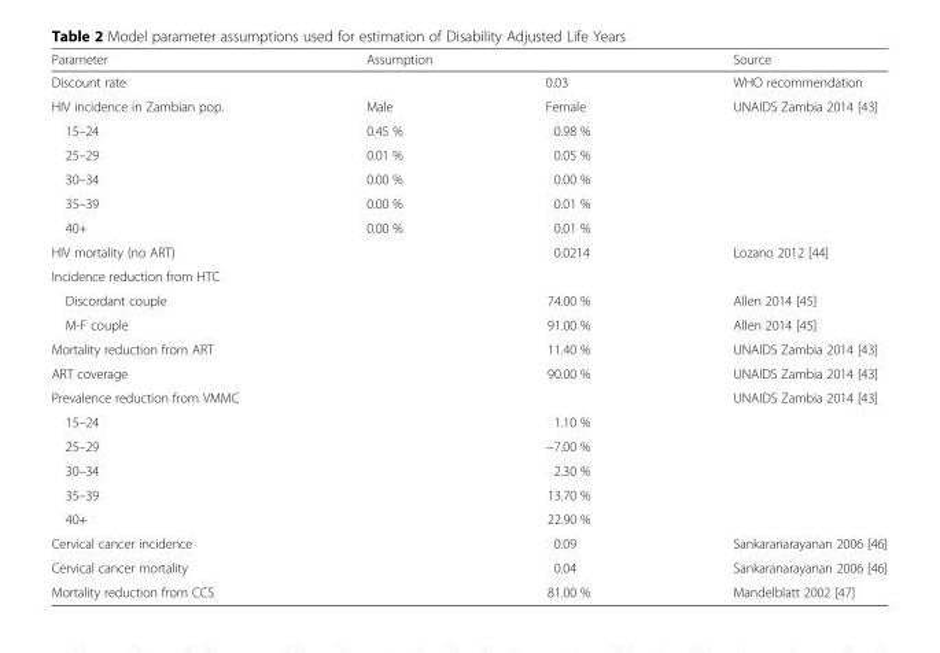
<table><thead><tr><td rowspan="2">Parameter Discount rate</td><td colspan="2">Assumption</td><td rowspan="2">Source WHO recommendation</td></tr><tr><td></td><td>0.03</td></tr></thead><tbody><tr><td>HIV incidence in Zambian pop.</td><td>Male</td><td>Female</td><td rowspan="6">UNAIDS Zambia 2014 [43]</td></tr><tr><td>15–24</td><td>0.45 %</td><td>0.98 %</td></tr><tr><td>25–29</td><td>0.01 %</td><td>0.05 %</td></tr><tr><td>30–34</td><td>0.00 %</td><td>0.00 %</td></tr><tr><td>35–39</td><td>0.00 %</td><td>0.01 %</td></tr><tr><td>40+</td><td>0.00 %</td><td>0.01 %</td></tr><tr><td>HIV mortality (no ART)</td><td></td><td>0.0214</td><td>Lozano 2012 [44]</td></tr><tr><td colspan="4">Incidence reduction from HTC</td></tr><tr><td>Discordant couple</td><td></td><td>74.00 %</td><td>Allen 2014 [45]</td></tr><tr><td>M-F couple</td><td></td><td>91.00 %</td><td>Allen 2014 [45]</td></tr><tr><td>Mortality reduction from ART</td><td></td><td>11.40 %</td><td>UNAIDS Zambia 2014 [43]</td></tr><tr><td>ART coverage</td><td></td><td>90.00 %</td><td>UNAIDS Zambia 2014 [43]</td></tr><tr><td colspan="3">Prevalence reduction from VMMC</td><td rowspan="6">UNAIDS Zambia 2014 [43]</td></tr><tr><td>15–24</td><td></td><td>1.10 %</td></tr><tr><td>25–29</td><td></td><td>−7.00 %</td></tr><tr><td>30–34</td><td></td><td>2.30 %</td></tr><tr><td>35–39</td><td></td><td>13.70 %</td></tr><tr><td>40+</td><td></td><td>22.90 %</td></tr><tr><td>Cervical cancer incidence</td><td></td><td>0.09</td><td>Sankaranarayanan 2006 [46]</td></tr><tr><td>Cervical cancer mortality</td><td></td><td>0.04</td><td>Sankaranarayanan 2006 [46]</td></tr><tr><td>Mortality reduction from CCS</td><td></td><td>81.00 %</td><td>Mandelblatt 2002 [47]</td></tr></tbody></table>